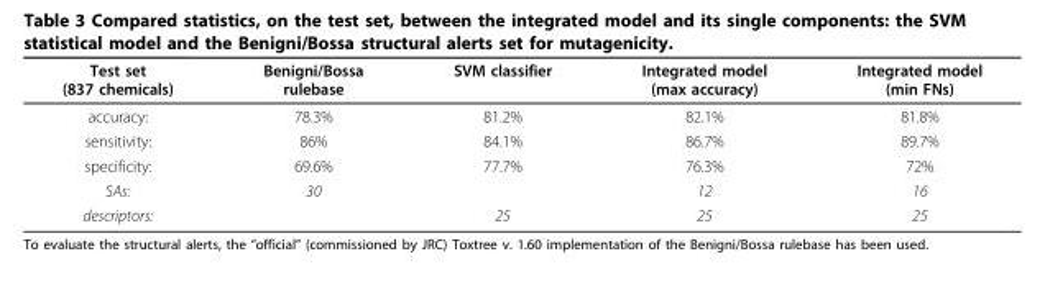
<table><thead><tr><td>Test set (837 chemicals)</td><td>Benigni/Bossa rulebase</td><td>SVM classifier</td><td>Integrated model (max accuracy)</td><td>Integrated model (min FNs)</td></tr></thead><tbody><tr><td>accuracy:</td><td>78.3%</td><td>81.2%</td><td>82.1%</td><td>81.8%</td></tr><tr><td>sensitivity:</td><td>86%</td><td>84.1%</td><td>86.7%</td><td>89.7%</td></tr><tr><td>specificity:</td><td>69.6%</td><td>77.7%</td><td>76.3%</td><td>72%</td></tr><tr><td>SAs:</td><td>30</td><td></td><td>12</td><td>16</td></tr><tr><td>descriptors:</td><td></td><td>25</td><td>25</td><td>25</td></tr></tbody></table>